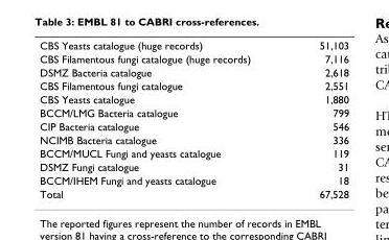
<table><tbody><tr><td>CBS Yeasts catalogue (huge records)</td><td>51,103</td></tr><tr><td>CBS Filamentous fungi catalogue (huge records)</td><td>7,116</td></tr><tr><td>DSMZ Bacteria catalogue</td><td>2,618</td></tr><tr><td>CBS Filamentous fungi catalogue</td><td>2,551</td></tr><tr><td>CBS Yeasts catalogue</td><td>1,880</td></tr><tr><td>BCCM/LMG Bacteria catalogue</td><td>799</td></tr><tr><td>CIP Bacteria catalogue</td><td>546</td></tr><tr><td>NCIMB Bacteria catalogue</td><td>336</td></tr><tr><td>BCCM/MUCL Fungi and yeasts catalogue</td><td>119</td></tr><tr><td>DSMZ Fungi catalogue</td><td>31</td></tr><tr><td>BCCM/IHEM Fungi and yeasts catalogue</td><td>18</td></tr><tr><td>Total</td><td>67,528</td></tr></tbody></table>